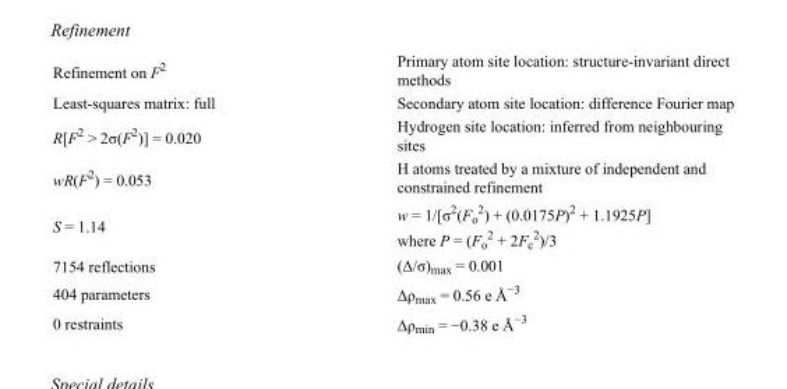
<table><tbody><tr><td>Refinement on F<sup>2</sup></td><td>Primary atom site location: structure-invariant direct methods</td></tr><tr><td>Least-squares matrix: full</td><td>Secondary atom site location: difference Fourier map</td></tr><tr><td>R[F<sup>2</sup> &gt; 2σ(F<sup>2</sup>)] = 0.020</td><td>Hydrogen site location: inferred from neighbouring sites</td></tr><tr><td>wR(F<sup>2</sup>) = 0.053</td><td>H atoms treated by a mixture of independent and constrained refinement</td></tr><tr><td>S = 1.14</td><td>w = 1/[σ<sup>2</sup>(F<sub>o</sub> <sup>2</sup>) + (0.0175P)<sup>2</sup> + 1.1925P] where P = (F<sub>o</sub> <sup>2</sup> + 2F<sub>c</sub> <sup>2</sup>)/3</td></tr><tr><td>7154 reflections</td><td>(Δ/σ)<sub>max</sub> = 0.001</td></tr><tr><td>404 parameters</td><td>Δρ<sub>max</sub> = 0.56 e Å<sup>−3</sup></td></tr><tr><td>0 restraints</td><td>Δρ<sub>min</sub> = −0.38 e Å<sup>−3</sup></td></tr></tbody></table>